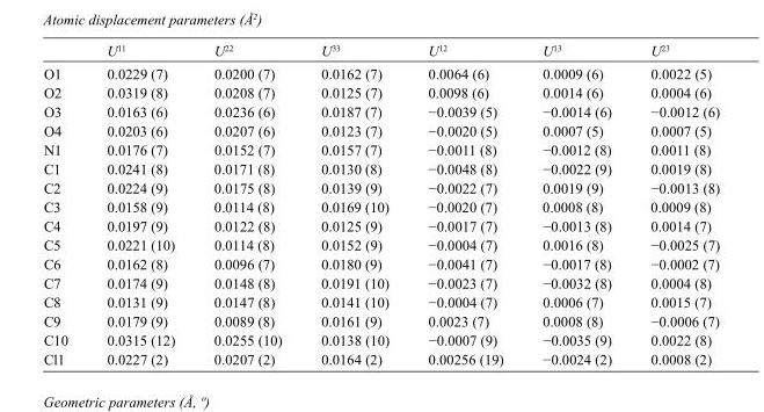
<table><thead><tr><td></td><td>U<sup>11</sup></td><td>U<sup>22</sup></td><td>U<sup>33</sup></td><td>U<sup>12</sup></td><td>U<sup>13</sup></td><td>U<sup>23</sup></td></tr></thead><tbody><tr><td>O1</td><td>0.0229 (7)</td><td>0.0200 (7)</td><td>0.0162 (7)</td><td>0.0064 (6)</td><td>0.0009 (6)</td><td>0.0022 (5)</td></tr><tr><td>O2</td><td>0.0319 (8)</td><td>0.0208 (7)</td><td>0.0125 (7)</td><td>0.0098 (6)</td><td>0.0014 (6)</td><td>0.0004 (6)</td></tr><tr><td>O3</td><td>0.0163 (6)</td><td>0.0236 (6)</td><td>0.0187 (7)</td><td>−0.0039 (5)</td><td>−0.0014 (6)</td><td>−0.0012 (6)</td></tr><tr><td>O4</td><td>0.0203 (6)</td><td>0.0207 (6)</td><td>0.0123 (7)</td><td>−0.0020 (5)</td><td>0.0007 (5)</td><td>0.0007 (5)</td></tr><tr><td>N1</td><td>0.0176 (7)</td><td>0.0152 (7)</td><td>0.0157 (7)</td><td>−0.0011 (8)</td><td>−0.0012 (8)</td><td>0.0011 (8)</td></tr><tr><td>C1</td><td>0.0241 (8)</td><td>0.0171 (8)</td><td>0.0130 (8)</td><td>−0.0048 (8)</td><td>−0.0022 (9)</td><td>0.0019 (8)</td></tr><tr><td>C2</td><td>0.0224 (9)</td><td>0.0175 (8)</td><td>0.0139 (9)</td><td>−0.0022 (7)</td><td>0.0019 (9)</td><td>−0.0013 (8)</td></tr><tr><td>C3</td><td>0.0158 (9)</td><td>0.0114 (8)</td><td>0.0169 (10)</td><td>−0.0020 (7)</td><td>0.0008 (8)</td><td>0.0009 (8)</td></tr><tr><td>C4</td><td>0.0197 (9)</td><td>0.0122 (8)</td><td>0.0125 (9)</td><td>−0.0017 (7)</td><td>−0.0013 (8)</td><td>0.0014 (7)</td></tr><tr><td>C5</td><td>0.0221 (10)</td><td>0.0114 (8)</td><td>0.0152 (9)</td><td>−0.0004 (7)</td><td>0.0016 (8)</td><td>−0.0025 (7)</td></tr><tr><td>C6</td><td>0.0162 (8)</td><td>0.0096 (7)</td><td>0.0180 (9)</td><td>−0.0041 (7)</td><td>−0.0017 (8)</td><td>−0.0002 (7)</td></tr><tr><td>C7</td><td>0.0174 (9)</td><td>0.0148 (8)</td><td>0.0191 (10)</td><td>−0.0023 (7)</td><td>−0.0032 (8)</td><td>0.0004 (8)</td></tr><tr><td>C8</td><td>0.0131 (9)</td><td>0.0147 (8)</td><td>0.0141 (10)</td><td>−0.0004 (7)</td><td>0.0006 (7)</td><td>0.0015 (7)</td></tr><tr><td>C9</td><td>0.0179 (9)</td><td>0.0089 (8)</td><td>0.0161 (9)</td><td>0.0023 (7)</td><td>0.0008 (8)</td><td>−0.0006 (7)</td></tr><tr><td>C10</td><td>0.0315 (12)</td><td>0.0255 (10)</td><td>0.0138 (10)</td><td>−0.0007 (9)</td><td>−0.0035 (9)</td><td>0.0022 (8)</td></tr><tr><td>Cl1</td><td>0.0227 (2)</td><td>0.0207 (2)</td><td>0.0164 (2)</td><td>0.00256 (19)</td><td>−0.0024 (2)</td><td>0.0008 (2)</td></tr></tbody></table>